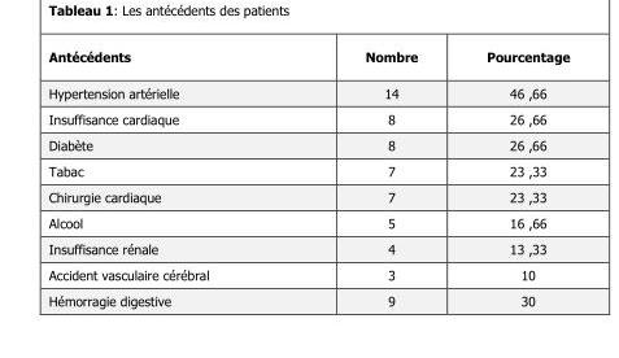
<table><thead><tr><td>Antécédents</td><td>Nombre</td><td>Pourcentage</td></tr></thead><tbody><tr><td>Hypertension artérielle</td><td>14</td><td>46 ,66</td></tr><tr><td>Insuffisance cardiaque</td><td>8</td><td>26 ,66</td></tr><tr><td>Diabète</td><td>8</td><td>26 ,66</td></tr><tr><td>Tabac</td><td>7</td><td>23 ,33</td></tr><tr><td>Chirurgie cardiaque</td><td>7</td><td>23 ,33</td></tr><tr><td>Alcool</td><td>5</td><td>16 ,66</td></tr><tr><td>Insuffisance rénale</td><td>4</td><td>13 ,33</td></tr><tr><td>Accident vasculaire cérébral</td><td>3</td><td>10</td></tr><tr><td>Hémorragie digestive</td><td>9</td><td>30</td></tr></tbody></table>